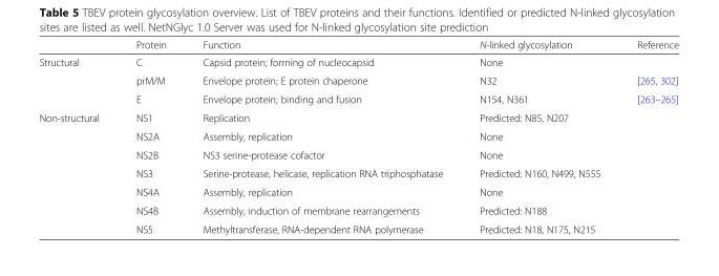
<table><thead><tr><td></td><td>Protein</td><td>Function</td><td>N-linked glycosylation</td><td>Reference</td></tr></thead><tbody><tr><td rowspan="3">Structural</td><td>C</td><td>Capsid protein; forming of nucleocapsid</td><td>None</td><td></td></tr><tr><td>prM/M</td><td>Envelope protein; E protein chaperone</td><td>N32</td><td>[265, 302]</td></tr><tr><td>E</td><td>Envelope protein; binding and fusion</td><td>N154, N361</td><td>[263–265]</td></tr><tr><td rowspan="7">Non-structural</td><td>NS1</td><td>Replication</td><td>Predicted: N85, N207</td><td></td></tr><tr><td>NS2A</td><td>Assembly, replication</td><td>None</td><td></td></tr><tr><td>NS2B</td><td>NS3 serine-protease cofactor</td><td>None</td><td></td></tr><tr><td>NS3</td><td>Serine-protease, helicase, replication RNA triphosphatase</td><td>Predicted: N160, N499, N555</td><td></td></tr><tr><td>NS4A</td><td>Assembly, replication</td><td>None</td><td></td></tr><tr><td>NS4B</td><td>Assembly, induction of membrane rearrangements</td><td>Predicted: N188</td><td></td></tr><tr><td>NS5</td><td>Methyltransferase, RNA-dependent RNA polymerase</td><td>Predicted: N18, N175, N215</td><td></td></tr></tbody></table>